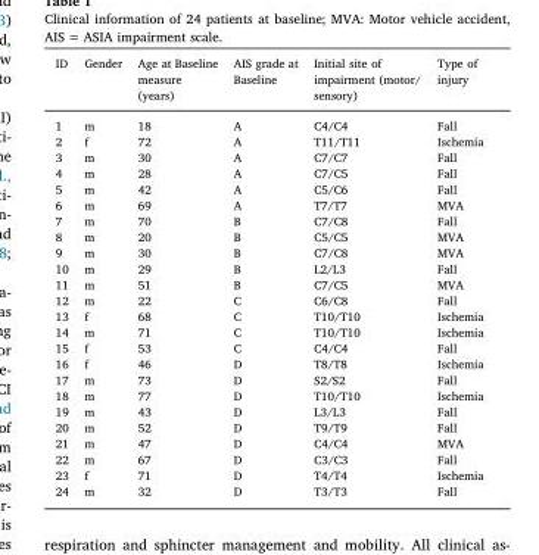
<table><thead><tr><td>ID</td><td>Gender</td><td>Age at Baseline measure (years)</td><td>AIS grade at Baseline</td><td>Initial site of impairment (motor/ sensory)</td><td>Type of injury</td></tr></thead><tbody><tr><td>1</td><td>m</td><td>18</td><td>A</td><td>C4/C4</td><td>Fall</td></tr><tr><td>2</td><td>f</td><td>72</td><td>A</td><td>T11/T11</td><td>Ischemia</td></tr><tr><td>3</td><td>m</td><td>30</td><td>A</td><td>C7/C7</td><td>Fall</td></tr><tr><td>4</td><td>m</td><td>28</td><td>A</td><td>C7/C5</td><td>Fall</td></tr><tr><td>5</td><td>m</td><td>42</td><td>A</td><td>C5/C6</td><td>Fall</td></tr><tr><td>6</td><td>m</td><td>69</td><td>A</td><td>T7/T7</td><td>MVA</td></tr><tr><td>7</td><td>m</td><td>70</td><td>B</td><td>C7/C8</td><td>Fall</td></tr><tr><td>8</td><td>m</td><td>20</td><td>B</td><td>C5/C5</td><td>MVA</td></tr><tr><td>9</td><td>m</td><td>30</td><td>B</td><td>C7/C8</td><td>MVA</td></tr><tr><td>10</td><td>m</td><td>29</td><td>B</td><td>L2/L3</td><td>Fall</td></tr><tr><td>11</td><td>m</td><td>51</td><td>B</td><td>C7/C5</td><td>MVA</td></tr><tr><td>12</td><td>m</td><td>22</td><td>C</td><td>C6/C8</td><td>Fall</td></tr><tr><td>13</td><td>f</td><td>68</td><td>C</td><td>T10/T10</td><td>Ischemia</td></tr><tr><td>14</td><td>m</td><td>71</td><td>C</td><td>T10/T10</td><td>Ischemia</td></tr><tr><td>15</td><td>f</td><td>53</td><td>C</td><td>C4/C4</td><td>Fall</td></tr><tr><td>16</td><td>f</td><td>46</td><td>D</td><td>T8/T8</td><td>Ischemia</td></tr><tr><td>17</td><td>m</td><td>73</td><td>D</td><td>S2/S2</td><td>Fall</td></tr><tr><td>18</td><td>m</td><td>77</td><td>D</td><td>T10/T10</td><td>Ischemia</td></tr><tr><td>19</td><td>m</td><td>43</td><td>D</td><td>L3/L3</td><td>Fall</td></tr><tr><td>20</td><td>m</td><td>52</td><td>D</td><td>T9/T9</td><td>Fall</td></tr><tr><td>21</td><td>m</td><td>47</td><td>D</td><td>C4/C4</td><td>MVA</td></tr><tr><td>22</td><td>m</td><td>67</td><td>D</td><td>C3/C3</td><td>Fall</td></tr><tr><td>23</td><td>f</td><td>71</td><td>D</td><td>T4/T4</td><td>Ischemia</td></tr><tr><td>24</td><td>m</td><td>32</td><td>D</td><td>T3/T3</td><td>Fall</td></tr></tbody></table>